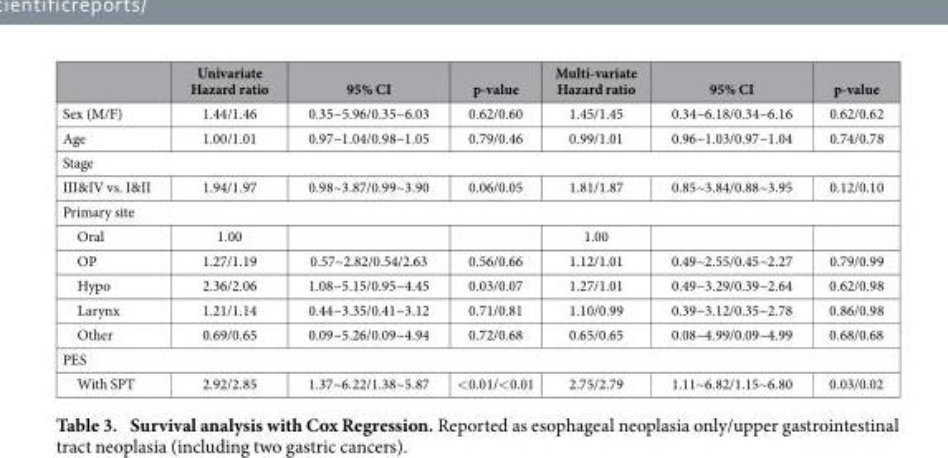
<table><thead><tr><td></td><td>Univariate Hazard ratio</td><td>95% CI</td><td>p-value</td><td>Multi-variate Hazard ratio</td><td>95% CI</td><td>p-value</td></tr></thead><tbody><tr><td>Sex (M/F)</td><td>1.44/1.46</td><td>0.35~5.96/0.35~6.03</td><td>0.62/0.60</td><td>1.45/1.45</td><td>0.34~6.18/0.34~6.16</td><td>0.62/0.62</td></tr><tr><td>Age</td><td>1.00/1.01</td><td>0.97~1.04/0.98~1.05</td><td>0.79/0.46</td><td>0.99/1.01</td><td>0.96~1.03/0.97~1.04</td><td>0.74/0.78</td></tr><tr><td colspan="7">Stage</td></tr><tr><td>III&amp;IV vs. I&amp;II</td><td>1.94/1.97</td><td>0.98~3.87/0.99~3.90</td><td>0.06/0.05</td><td>1.81/1.87</td><td>0.85~3.84/0.88~3.95</td><td>0.12/0.10</td></tr><tr><td colspan="7">Primary site</td></tr><tr><td>Oral</td><td>1.00</td><td></td><td></td><td>1.00</td><td></td><td></td></tr><tr><td>OP</td><td>1.27/1.19</td><td>0.57~2.82/0.54/2.63</td><td>0.56/0.66</td><td>1.12/1.01</td><td>0.49~2.55/0.45~2.27</td><td>0.79/0.99</td></tr><tr><td>Hypo</td><td>2.36/2.06</td><td>1.08~5.15/0.95~4.45</td><td>0.03/0.07</td><td>1.27/1.01</td><td>0.49~3.29/0.39~2.64</td><td>0.62/0.98</td></tr><tr><td>Larynx</td><td>1.21/1.14</td><td>0.44~3.35/0.41~3.12</td><td>0.71/0.81</td><td>1.10/0.99</td><td>0.39~3.12/0.35~2.78</td><td>0.86/0.98</td></tr><tr><td>Other</td><td>0.69/0.65</td><td>0.09~5.26/0.09~4.94</td><td>0.72/0.68</td><td>0.65/0.65</td><td>0.08~4.99/0.09~4.99</td><td>0.68/0.68</td></tr><tr><td colspan="7">PES</td></tr><tr><td>With SPT</td><td>2.92/2.85</td><td>1.37~6.22/1.38~5.87</td><td>&lt; 0.01/&lt; 0.01</td><td>2.75/2.79</td><td>1.11~6.82/1.15~6.80</td><td>0.03/0.02</td></tr></tbody></table>